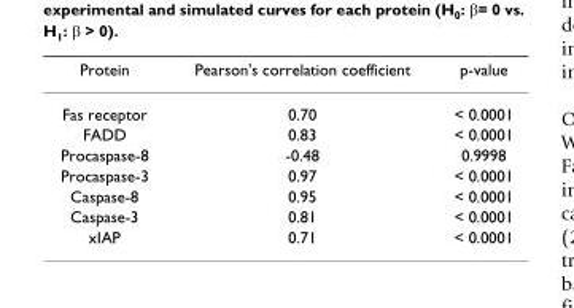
<table><thead><tr><td>Protein</td><td>Pearson&#x27;s correlation coefficient</td><td>p-value</td></tr></thead><tbody><tr><td>Fas receptor</td><td>0.70</td><td>&lt; 0.0001</td></tr><tr><td>FADD</td><td>0.83</td><td>&lt; 0.0001</td></tr><tr><td>Procaspase-8</td><td>-0.48</td><td>0.9998</td></tr><tr><td>Procaspase-3</td><td>0.97</td><td>&lt; 0.0001</td></tr><tr><td>Caspase-8</td><td>0.95</td><td>&lt; 0.0001</td></tr><tr><td>Caspase-3</td><td>0.81</td><td>&lt; 0.0001</td></tr><tr><td>xIAP</td><td>0.71</td><td>&lt; 0.0001</td></tr></tbody></table>